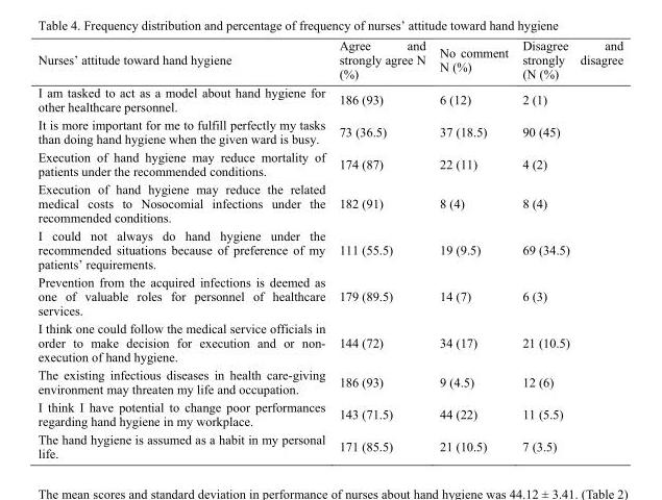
<table><thead><tr><td>Nurses’ attitude toward hand hygiene</td><td>Agree and strongly agree N (%)</td><td>No comment N (%)</td><td>Disagree and strongly disagree (N (%)</td></tr></thead><tbody><tr><td>I am tasked to act as a model about hand hygiene for other healthcare personnel.</td><td>186 (93)</td><td>6 (12)</td><td>2 (1)</td></tr><tr><td>It is more important for me to fulfill perfectly my tasks than doing hand hygiene when the given ward is busy.</td><td>73 (36.5)</td><td>37 (18.5)</td><td>90 (45)</td></tr><tr><td>Execution of hand hygiene may reduce mortality of patients under the recommended conditions.</td><td>174 (87)</td><td>22 (11)</td><td>4 (2)</td></tr><tr><td>Execution of hand hygiene may reduce the related medical costs to Nosocomial infections under the recommended conditions.</td><td>182 (91)</td><td>8 (4)</td><td>8 (4)</td></tr><tr><td>I could not always do hand hygiene under the recommended situations because of preference of my patients’ requirements.</td><td>111 (55.5)</td><td>19 (9.5)</td><td>69 (34.5)</td></tr><tr><td>Prevention from the acquired infections is deemed as one of valuable roles for personnel of healthcare services.</td><td>179 (89.5)</td><td>14 (7)</td><td>6 (3)</td></tr><tr><td>I think one could follow the medical service officials in order to make decision for execution and or non- execution of hand hygiene.</td><td>144 (72)</td><td>34 (17)</td><td>21 (10.5)</td></tr><tr><td>The existing infectious diseases in health care-giving environment may threaten my life and occupation.</td><td>186 (93)</td><td>9 (4.5)</td><td>12 (6)</td></tr><tr><td>I think I have potential to change poor performances regarding hand hygiene in my workplace.</td><td>143 (71.5)</td><td>44 (22)</td><td>11 (5.5)</td></tr><tr><td>The hand hygiene is assumed as a habit in my personal life.</td><td>171 (85.5)</td><td>21 (10.5)</td><td>7 (3.5)</td></tr></tbody></table>